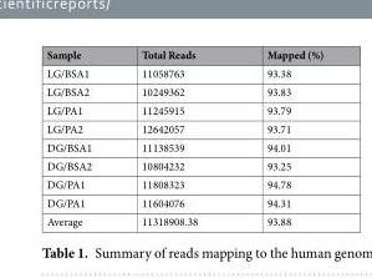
<table><thead><tr><td>Sample</td><td>Total Reads</td><td>Mapped (%)</td></tr></thead><tbody><tr><td>LG/BSA1</td><td>11058763</td><td>93.38</td></tr><tr><td>LG/BSA2</td><td>10249362</td><td>93.83</td></tr><tr><td>LG/PA1</td><td>11245915</td><td>93.79</td></tr><tr><td>LG/PA2</td><td>12642057</td><td>93.71</td></tr><tr><td>DG/BSA1</td><td>11138539</td><td>94.01</td></tr><tr><td>DG/BSA2</td><td>10804232</td><td>93.25</td></tr><tr><td>DG/PA1</td><td>11808323</td><td>94.78</td></tr><tr><td>DG/PA1</td><td>11604076</td><td>94.31</td></tr><tr><td>Average</td><td>11318908.38</td><td>93.88</td></tr></tbody></table>